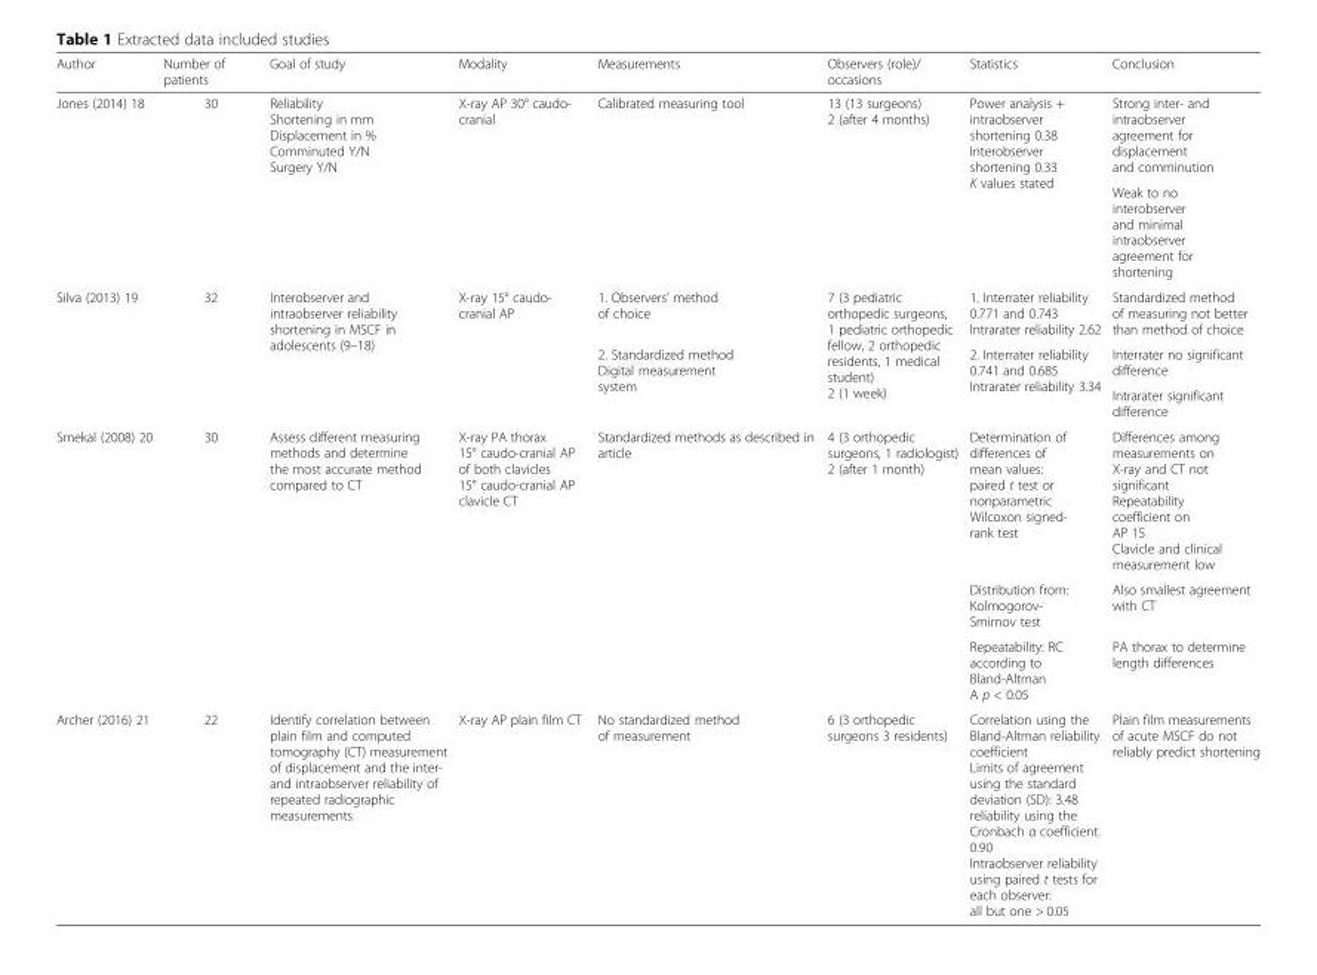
<table><thead><tr><td>Author</td><td>Number of patients</td><td>Goal of study</td><td>Modality</td><td>Measurements</td><td>Observers (role)/ occasions</td><td>Statistics</td><td>Conclusion</td></tr></thead><tbody><tr><td rowspan="2">Jones (2014) 18</td><td rowspan="2">30</td><td rowspan="2">Reliability Shortening in mm Displacement in % Comminuted Y/N Surgery Y/N</td><td rowspan="2">X-ray AP 30° caudo- cranial</td><td rowspan="2">Calibrated measuring tool</td><td rowspan="2">13 (13 surgeons) 2 (after 4 months)</td><td rowspan="2">Power analysis + intraobserver shortening 0.38 Interobserver shortening 0.33 K values stated</td><td>Strong inter- and intraobserver agreement for displacement and comminution</td></tr><tr><td>Weak to no interobserver and minimal intraobserver agreement for shortening</td></tr><tr><td rowspan="3">Silva (2013) 19</td><td rowspan="3">32</td><td rowspan="3">Interobserver and intraobserver reliability shortening in MSCF in adolescents (9–18)</td><td rowspan="3">X-ray 15° caudo- cranial AP</td><td>1. Observers’ method of choice</td><td rowspan="3">7 (3 pediatric orthopedic surgeons, 1 pediatric orthopedic fellow, 2 orthopedic residents, 1 medical student) 2 (1 week)</td><td>1. Interrater reliability 0.771 and 0.743 Intrarater reliability 2.62</td><td>Standardized method of measuring not better than method of choice</td></tr><tr><td rowspan="2">2. Standardized method Digital measurement system</td><td rowspan="2">2. Interrater reliability 0.741 and 0.685 Intrarater reliability 3.34</td><td>Interrater no significant difference</td></tr><tr><td>Intrarater significant difference</td></tr><tr><td rowspan="3">Smekal (2008) 20</td><td rowspan="3">30</td><td rowspan="3">Assess different measuring methods and determine the most accurate method compared to CT</td><td rowspan="3">X-ray PA thorax 15° caudo-cranial AP of both clavicles 15° caudo-cranial AP clavicle CT</td><td rowspan="3">Standardized methods as described in article</td><td rowspan="3">4 (3 orthopedic surgeons, 1 radiologist) 2 (after 1 month)</td><td>Determination of differences of mean values: paired t test or nonparametric Wilcoxon signed- rank test</td><td>Differences among measurements on X-ray and CT not significant Repeatability coefficient on AP 15 Clavicle and clinical measurement low</td></tr><tr><td>Distribution from: Kolmogorov- Smirnov test</td><td>Also smallest agreement with CT</td></tr><tr><td>Repeatability: RC according to Bland-Altman A p &lt; 0.05</td><td>PA thorax to determine length differences</td></tr><tr><td>Archer (2016) 21</td><td>22</td><td>Identify correlation between plain film and computed tomography (CT) measurement of displacement and the inter- and intraobserver reliability of repeated radiographic measurements</td><td>X-ray AP plain film CT</td><td>No standardized method of measurement</td><td>6 (3 orthopedic surgeons 3 residents)</td><td>Correlation using the Bland-Altman reliability coefficient Limits of agreement using the standard deviation (SD): 3.48 reliability using the Cronbach α coefficient. 0.90 Intraobserver reliability using paired t tests for each observer: all but one &gt; 0.05</td><td>Plain film measurements of acute MSCF do not reliably predict shortening</td></tr></tbody></table>